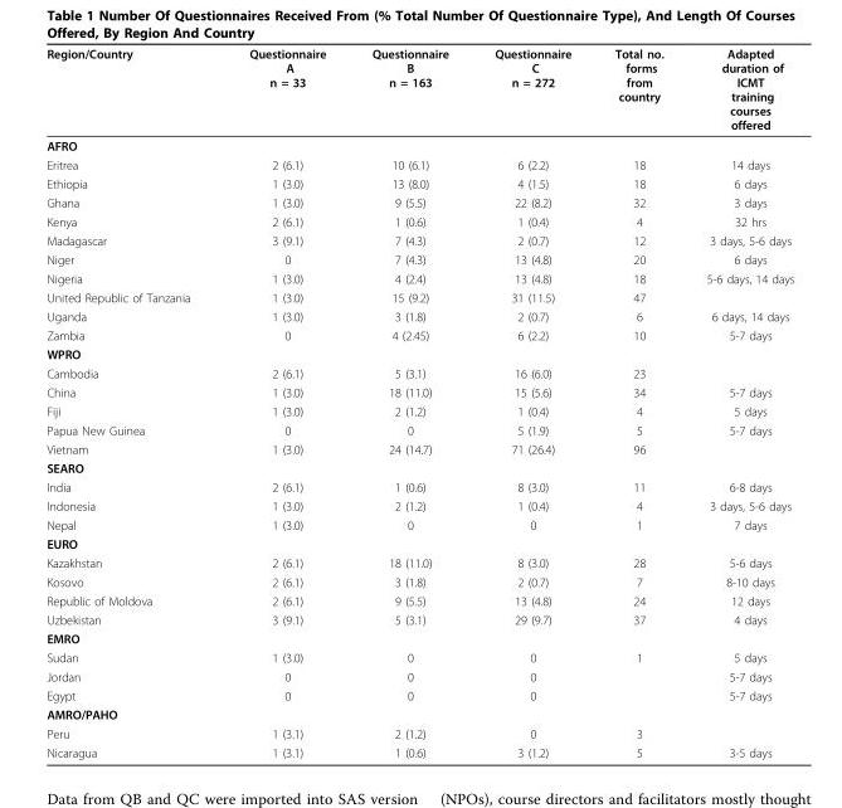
<table><thead><tr><td>Region/Country</td><td>Questionnaire A n = 33</td><td>Questionnaire B n = 163</td><td>Questionnaire C n = 272</td><td>Total no. forms from country</td><td>Adapted duration of ICMT training courses offered</td></tr></thead><tbody><tr><td colspan="6">AFRO</td></tr><tr><td>Eritrea</td><td>2 (6.1)</td><td>10 (6.1)</td><td>6 (2.2)</td><td>18</td><td>14 days</td></tr><tr><td>Ethiopia</td><td>1 (3.0)</td><td>13 (8.0)</td><td>4 (1.5)</td><td>18</td><td>6 days</td></tr><tr><td>Ghana</td><td>1 (3.0)</td><td>9 (5.5)</td><td>22 (8.2)</td><td>32</td><td>3 days</td></tr><tr><td>Kenya</td><td>2 (6.1)</td><td>1 (0.6)</td><td>1 (0.4)</td><td>4</td><td>32 hrs</td></tr><tr><td>Madagascar</td><td>3 (9.1)</td><td>7 (4.3)</td><td>2 (0.7)</td><td>12</td><td>3 days, 5-6 days</td></tr><tr><td>Niger</td><td>0</td><td>7 (4.3)</td><td>13 (4.8)</td><td>20</td><td>6 days</td></tr><tr><td>Nigeria</td><td>1 (3.0)</td><td>4 (2.4)</td><td>13 (4.8)</td><td>18</td><td>5-6 days, 14 days</td></tr><tr><td>United Republic of Tanzania</td><td>1 (3.0)</td><td>15 (9.2)</td><td>31 (11.5)</td><td>47</td><td></td></tr><tr><td>Uganda</td><td>1 (3.0)</td><td>3 (1.8)</td><td>2 (0.7)</td><td>6</td><td>6 days, 14 days</td></tr><tr><td>Zambia</td><td>0</td><td>4 (2.45)</td><td>6 (2.2)</td><td>10</td><td>5-7 days</td></tr><tr><td colspan="6">WPRO</td></tr><tr><td>Cambodia</td><td>2 (6.1)</td><td>5 (3.1)</td><td>16 (6.0)</td><td>23</td><td></td></tr><tr><td>China</td><td>1 (3.0)</td><td>18 (11.0)</td><td>15 (5.6)</td><td>34</td><td>5-7 days</td></tr><tr><td>Fiji</td><td>1 (3.0)</td><td>2 (1.2)</td><td>1 (0.4)</td><td>4</td><td>5 days</td></tr><tr><td>Papua New Guinea</td><td>0</td><td>0</td><td>5 (1.9)</td><td>5</td><td>5-7 days</td></tr><tr><td>Vietnam</td><td>1 (3.0)</td><td>24 (14.7)</td><td>71 (26.4)</td><td>96</td><td></td></tr><tr><td colspan="6">SEARO</td></tr><tr><td>India</td><td>2 (6.1)</td><td>1 (0.6)</td><td>8 (3.0)</td><td>11</td><td>6-8 days</td></tr><tr><td>Indonesia</td><td>1 (3.0)</td><td>2 (1.2)</td><td>1 (0.4)</td><td>4</td><td>3 days, 5-6 days</td></tr><tr><td>Nepal</td><td>1 (3.0)</td><td>0</td><td>0</td><td>1</td><td>7 days</td></tr><tr><td colspan="6">EURO</td></tr><tr><td>Kazakhstan</td><td>2 (6.1)</td><td>18 (11.0)</td><td>8 (3.0)</td><td>28</td><td>5-6 days</td></tr><tr><td>Kosovo</td><td>2 (6.1)</td><td>3 (1.8)</td><td>2 (0.7)</td><td>7</td><td>8-10 days</td></tr><tr><td>Republic of Moldova</td><td>2 (6.1)</td><td>9 (5.5)</td><td>13 (4.8)</td><td>24</td><td>12 days</td></tr><tr><td>Uzbekistan</td><td>3 (9.1)</td><td>5 (3.1)</td><td>29 (9.7)</td><td>37</td><td>4 days</td></tr><tr><td colspan="6">EMRO</td></tr><tr><td>Sudan</td><td>1 (3.0)</td><td>0</td><td>0</td><td>1</td><td>5 days</td></tr><tr><td>Jordan</td><td>0</td><td>0</td><td>0</td><td></td><td>5-7 days</td></tr><tr><td>Egypt</td><td>0</td><td>0</td><td>0</td><td></td><td>5-7 days</td></tr><tr><td colspan="6">AMRO/PAHO</td></tr><tr><td>Peru</td><td>1 (3.1)</td><td>2 (1.2)</td><td>0</td><td>3</td><td></td></tr><tr><td>Nicaragua</td><td>1 (3.1)</td><td>1 (0.6)</td><td>3 (1.2)</td><td>5</td><td>3-5 days</td></tr></tbody></table>